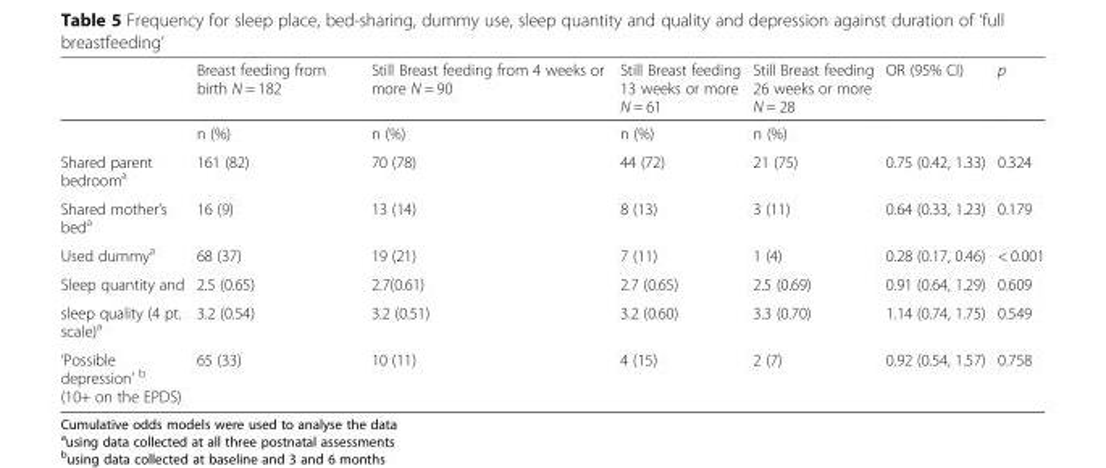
<table><thead><tr><td></td><td>Breast feeding from birth N = 182</td><td>Still Breast feeding from 4 weeks or more N = 90</td><td>Still Breast feeding 13 weeks or more N = 61</td><td>Still Breast feeding 26 weeks or more N = 28</td><td>OR (95% CI)</td><td>p</td></tr></thead><tbody><tr><td></td><td>n (%)</td><td>n (%)</td><td>n (%)</td><td>n (%)</td><td></td><td></td></tr><tr><td>Shared parent bedroom<sup>a</sup></td><td>161 (82)</td><td>70 (78)</td><td>44 (72)</td><td>21 (75)</td><td>0.75 (0.42, 1.33)</td><td>0.324</td></tr><tr><td>Shared mother’s bed<sup>a</sup></td><td>16 (9)</td><td>13 (14)</td><td>8 (13)</td><td>3 (11)</td><td>0.64 (0.33, 1.23)</td><td>0.179</td></tr><tr><td>Used dummy<sup>a</sup></td><td>68 (37)</td><td>19 (21)</td><td>7 (11)</td><td>1 (4)</td><td>0.28 (0.17, 0.46)</td><td>&lt; 0.001</td></tr><tr><td>Sleep quantity and</td><td>2.5 (0.65)</td><td>2.7(0.61)</td><td>2.7 (0.65)</td><td>2.5 (0.69)</td><td>0.91 (0.64, 1.29)</td><td>0.609</td></tr><tr><td>sleep quality (4 pt. scale)<sup>a</sup></td><td>3.2 (0.54)</td><td>3.2 (0.51)</td><td>3.2 (0.60)</td><td>3.3 (0.70)</td><td>1.14 (0.74, 1.75)</td><td>0.549</td></tr><tr><td>‘Possible depression’ <sup>b</sup> (10+ on the EPDS)</td><td>65 (33)</td><td>10 (11)</td><td>4 (15)</td><td>2 (7)</td><td>0.92 (0.54, 1.57)</td><td>0.758</td></tr></tbody></table>